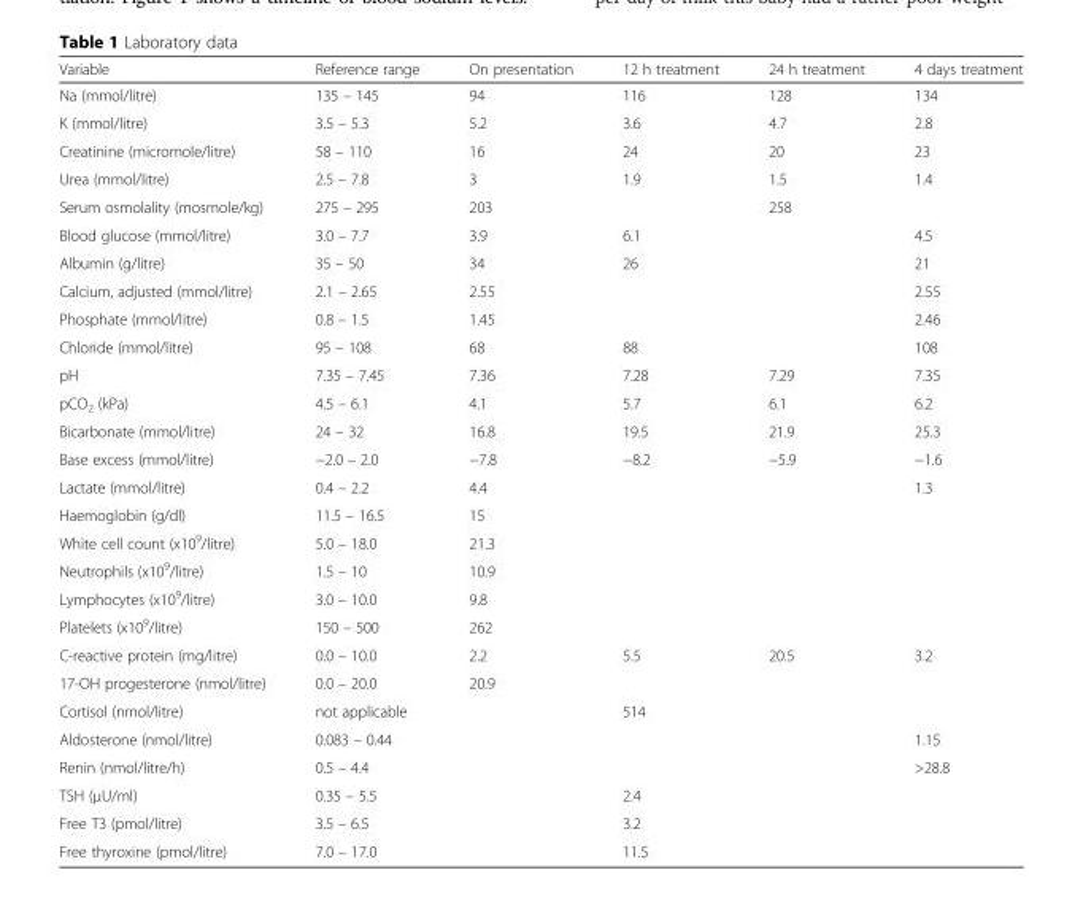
<table><thead><tr><td>Variable</td><td>Reference range</td><td>On presentation</td><td>12 h treatment</td><td>24 h treatment</td><td>4 days treatment</td></tr></thead><tbody><tr><td>Na (mmol/litre)</td><td>135 – 145</td><td>94</td><td>116</td><td>128</td><td>134</td></tr><tr><td>K (mmol/litre)</td><td>3.5 – 5.3</td><td>5.2</td><td>3.6</td><td>4.7</td><td>2.8</td></tr><tr><td>Creatinine (micromole/litre)</td><td>58 – 110</td><td>16</td><td>24</td><td>20</td><td>23</td></tr><tr><td>Urea (mmol/litre)</td><td>2.5 – 7.8</td><td>3</td><td>1.9</td><td>1.5</td><td>1.4</td></tr><tr><td>Serum osmolality (mosmole/kg)</td><td>275 – 295</td><td>203</td><td></td><td>258</td><td></td></tr><tr><td>Blood glucose (mmol/litre)</td><td>3.0 – 7.7</td><td>3.9</td><td>6.1</td><td></td><td>4.5</td></tr><tr><td>Albumin (g/litre)</td><td>35 – 50</td><td>34</td><td>26</td><td></td><td>21</td></tr><tr><td>Calcium, adjusted (mmol/litre)</td><td>2.1 – 2.65</td><td>2.55</td><td></td><td></td><td>2.55</td></tr><tr><td>Phosphate (mmol/litre)</td><td>0.8 – 1.5</td><td>1.45</td><td></td><td></td><td>2.46</td></tr><tr><td>Chloride (mmol/litre)</td><td>95 – 108</td><td>68</td><td>88</td><td></td><td>108</td></tr><tr><td>pH</td><td>7.35 – 7.45</td><td>7.36</td><td>7.28</td><td>7.29</td><td>7.35</td></tr><tr><td>pCO<sub>2</sub> (kPa)</td><td>4.5 – 6.1</td><td>4.1</td><td>5.7</td><td>6.1</td><td>6.2</td></tr><tr><td>Bicarbonate (mmol/litre)</td><td>24 – 32</td><td>16.8</td><td>19.5</td><td>21.9</td><td>25.3</td></tr><tr><td>Base excess (mmol/litre)</td><td>−2.0 – 2.0</td><td>−7.8</td><td>−8.2</td><td>−5.9</td><td>−1.6</td></tr><tr><td>Lactate (mmol/litre)</td><td>0.4 – 2.2</td><td>4.4</td><td></td><td></td><td>1.3</td></tr><tr><td>Haemoglobin (g/dl)</td><td>11.5 – 16.5</td><td>15</td><td></td><td></td><td></td></tr><tr><td>White cell count (x10<sup>9</sup>/litre)</td><td>5.0 – 18.0</td><td>21.3</td><td></td><td></td><td></td></tr><tr><td>Neutrophils (x10<sup>9</sup>/litre)</td><td>1.5 – 10</td><td>10.9</td><td></td><td></td><td></td></tr><tr><td>Lymphocytes (x10<sup>9</sup>/litre)</td><td>3.0 – 10.0</td><td>9.8</td><td></td><td></td><td></td></tr><tr><td>Platelets (x10<sup>9</sup>/litre)</td><td>150 – 500</td><td>262</td><td></td><td></td><td></td></tr><tr><td>C-reactive protein (mg/litre)</td><td>0.0 – 10.0</td><td>2.2</td><td>5.5</td><td>20.5</td><td>3.2</td></tr><tr><td>17-OH progesterone (nmol/litre)</td><td>0.0 – 20.0</td><td>20.9</td><td></td><td></td><td></td></tr><tr><td>Cortisol (nmol/litre)</td><td>not applicable</td><td></td><td>514</td><td></td><td></td></tr><tr><td>Aldosterone (nmol/litre)</td><td>0.083 – 0.44</td><td></td><td></td><td></td><td>1.15</td></tr><tr><td>Renin (nmol/litre/h)</td><td>0.5 – 4.4</td><td></td><td></td><td></td><td>&gt;28.8</td></tr><tr><td>TSH (μU/ml)</td><td>0.35 – 5.5</td><td></td><td>2.4</td><td></td><td></td></tr><tr><td>Free T3 (pmol/litre)</td><td>3.5 – 6.5</td><td></td><td>3.2</td><td></td><td></td></tr><tr><td>Free thyroxine (pmol/litre)</td><td>7.0 – 17.0</td><td></td><td>11.5</td><td></td><td></td></tr></tbody></table>